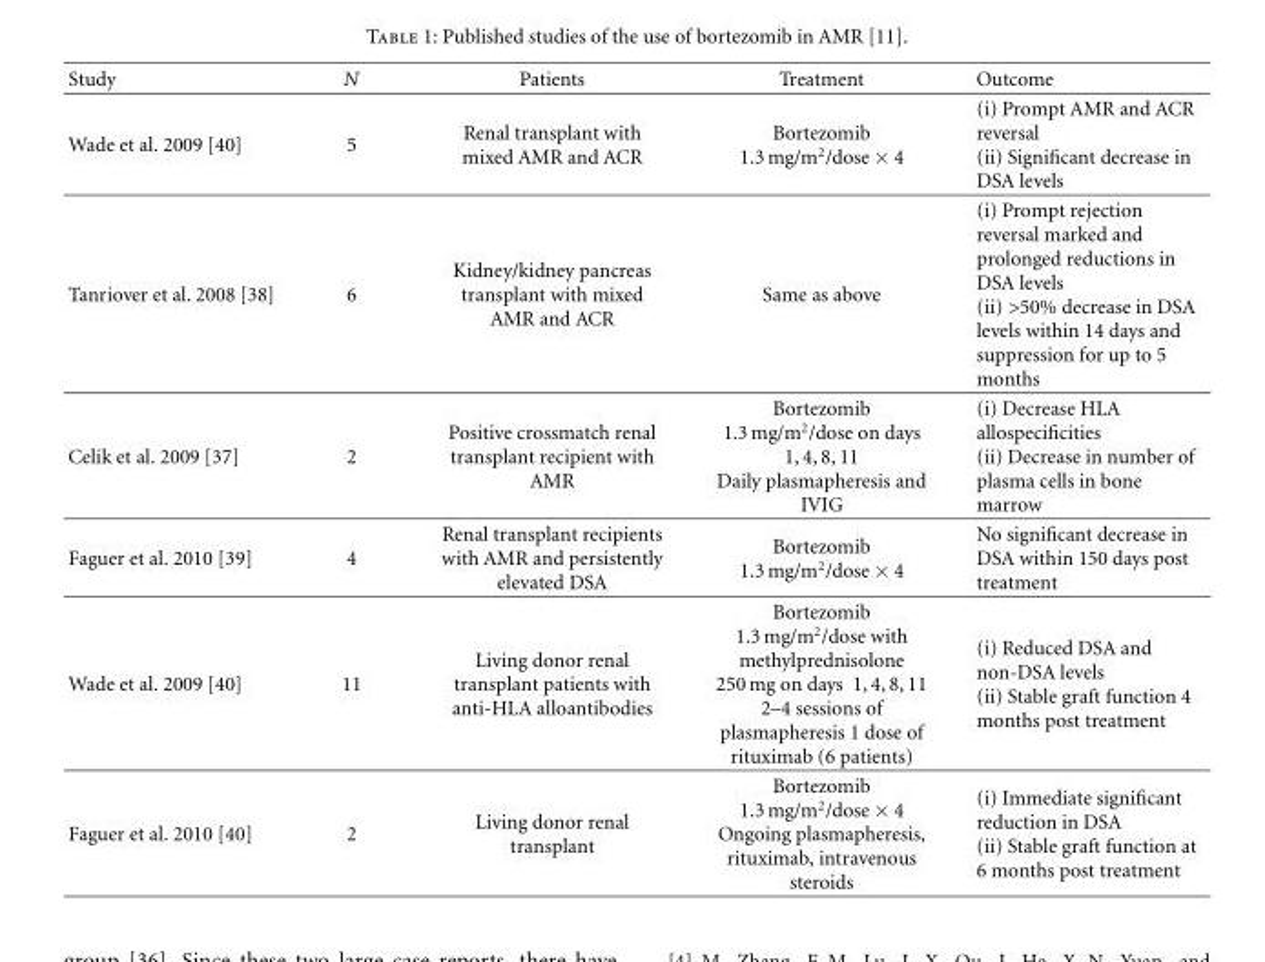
<table><thead><tr><td>Study</td><td>N</td><td>Patients</td><td>Treatment</td><td>Outcome</td></tr></thead><tbody><tr><td>Wade et al. 2009 [40]</td><td>5</td><td>Renal transplant with mixed AMR and ACR</td><td>Bortezomib 1.3 mg/m<sup>2</sup>/dose × 4</td><td>(i) Prompt AMR and ACR reversal (ii) Significant decrease in DSA levels</td></tr><tr><td>Tanriover et al. 2008 [38]</td><td>6</td><td>Kidney/kidney pancreas transplant with mixed AMR and ACR</td><td>Same as above</td><td>(i) Prompt rejection reversal marked and prolonged reductions in DSA levels (ii) &gt;50% decrease in DSA levels within 14 days and suppression for up to 5 months</td></tr><tr><td>Celik et al. 2009 [37]</td><td>2</td><td>Positive crossmatch renal transplant recipient with AMR</td><td>Bortezomib 1.3 mg/m<sup>2</sup>/dose on days 1, 4, 8, 11 Daily plasmapheresis and IVIG</td><td>(i) Decrease HLA allospecificities (ii) Decrease in number of plasma cells in bone marrow</td></tr><tr><td>Faguer et al. 2010 [39]</td><td>4</td><td>Renal transplant recipients with AMR and persistently elevated DSA</td><td>Bortezomib 1.3 mg/m<sup>2</sup>/dose × 4</td><td>No significant decrease in DSA within 150 days post treatment</td></tr><tr><td>Wade et al. 2009 [40]</td><td>11</td><td>Living donor renal transplant patients with anti-HLA alloantibodies</td><td>Bortezomib 1.3 mg/m<sup>2</sup>/dose with methylprednisolone 250 mg on days 1, 4, 8, 11 2–4 sessions of plasmapheresis 1 dose of rituximab (6 patients)</td><td>(i) Reduced DSA and non-DSA levels (ii) Stable graft function 4 months post treatment</td></tr><tr><td>Faguer et al. 2010 [40]</td><td>2</td><td>Living donor renal transplant</td><td>Bortezomib 1.3 mg/m<sup>2</sup>/dose × 4 Ongoing plasmapheresis, rituximab, intravenous steroids</td><td>(i) Immediate significant reduction in DSA (ii) Stable graft function at 6 months post treatment</td></tr></tbody></table>